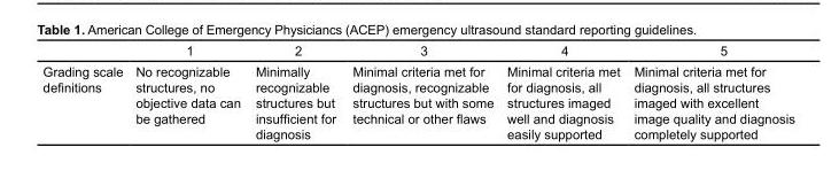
<table><thead><tr><td></td><td>1</td><td>2</td><td>3</td><td>4</td><td>5</td></tr></thead><tbody><tr><td>Grading scale definitions</td><td>No recognizable structures, no objective data can be gathered</td><td>Minimally recognizable structures but insufficient for diagnosis</td><td>Minimal criteria met for diagnosis, recognizable structures but with some technical or other flaws</td><td>Minimal criteria met for diagnosis, all structures imaged well and diagnosis easily supported</td><td>Minimal criteria met for diagnosis, all structures imaged with excellent image quality and diagnosis completely supported</td></tr></tbody></table>